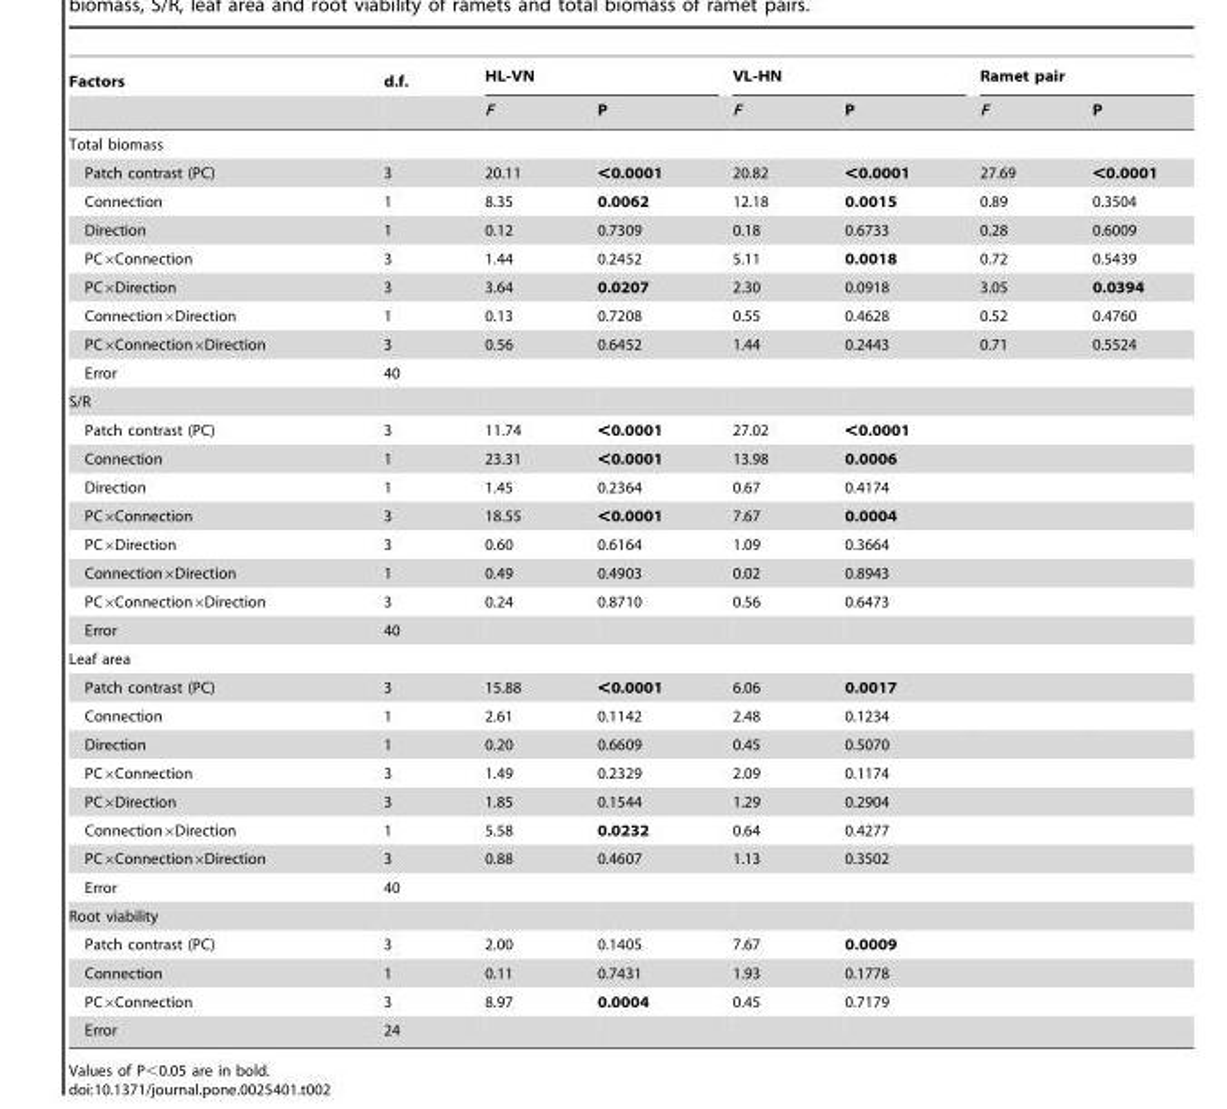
<table><thead><tr><td rowspan="2">Factors</td><td rowspan="2">d.f.</td><td colspan="2">HL-VN</td><td colspan="2">VL-HN</td><td colspan="2">Ramet pair</td></tr><tr><td>F</td><td>P</td><td>F</td><td>P</td><td>F</td><td>P</td></tr></thead><tbody><tr><td colspan="8">Total biomass</td></tr><tr><td>Patch contrast (PC)</td><td>3</td><td>20.11</td><td>&lt;0.0001</td><td>20.82</td><td>&lt;0.0001</td><td>27.69</td><td>&lt;0.0001</td></tr><tr><td>Connection</td><td>1</td><td>8.35</td><td>0.0062</td><td>12.18</td><td>0.0015</td><td>0.89</td><td>0.3504</td></tr><tr><td>Direction</td><td>1</td><td>0.12</td><td>0.7309</td><td>0.18</td><td>0.6733</td><td>0.28</td><td>0.6009</td></tr><tr><td>PC×Connection</td><td>3</td><td>1.44</td><td>0.2452</td><td>5.11</td><td>0.0018</td><td>0.72</td><td>0.5439</td></tr><tr><td>PC×Direction</td><td>3</td><td>3.64</td><td>0.0207</td><td>2.30</td><td>0.0918</td><td>3.05</td><td>0.0394</td></tr><tr><td>Connection×Direction</td><td>1</td><td>0.13</td><td>0.7208</td><td>0.55</td><td>0.4628</td><td>0.52</td><td>0.4760</td></tr><tr><td>PC×Connection×Direction</td><td>3</td><td>0.56</td><td>0.6452</td><td>1.44</td><td>0.2443</td><td>0.71</td><td>0.5524</td></tr><tr><td>Error</td><td>40</td><td></td><td></td><td></td><td></td><td></td><td></td></tr><tr><td colspan="8">S/R</td></tr><tr><td>Patch contrast (PC)</td><td>3</td><td>11.74</td><td>&lt;0.0001</td><td>27.02</td><td>&lt;0.0001</td><td></td><td></td></tr><tr><td>Connection</td><td>1</td><td>23.31</td><td>&lt;0.0001</td><td>13.98</td><td>0.0006</td><td></td><td></td></tr><tr><td>Direction</td><td>1</td><td>1.45</td><td>0.2364</td><td>0.67</td><td>0.4174</td><td></td><td></td></tr><tr><td>PC×Connection</td><td>3</td><td>18.55</td><td>&lt;0.0001</td><td>7.67</td><td>0.0004</td><td></td><td></td></tr><tr><td>PC×Direction</td><td>3</td><td>0.60</td><td>0.6164</td><td>1.09</td><td>0.3664</td><td></td><td></td></tr><tr><td>Connection×Direction</td><td>1</td><td>0.49</td><td>0.4903</td><td>0.02</td><td>0.8943</td><td></td><td></td></tr><tr><td>PC×Connection×Direction</td><td>3</td><td>0.24</td><td>0.8710</td><td>0.56</td><td>0.6473</td><td></td><td></td></tr><tr><td>Error</td><td>40</td><td></td><td></td><td></td><td></td><td></td><td></td></tr><tr><td colspan="8">Leaf area</td></tr><tr><td>Patch contrast (PC)</td><td>3</td><td>15.88</td><td>&lt;0.0001</td><td>6.06</td><td>0.0017</td><td></td><td></td></tr><tr><td>Connection</td><td>1</td><td>2.61</td><td>0.1142</td><td>2.48</td><td>0.1234</td><td></td><td></td></tr><tr><td>Direction</td><td>1</td><td>0.20</td><td>0.6609</td><td>0.45</td><td>0.5070</td><td></td><td></td></tr><tr><td>PC×Connection</td><td>3</td><td>1.49</td><td>0.2329</td><td>2.09</td><td>0.1174</td><td></td><td></td></tr><tr><td>PC×Direction</td><td>3</td><td>1.85</td><td>0.1544</td><td>1.29</td><td>0.2904</td><td></td><td></td></tr><tr><td>Connection×Direction</td><td>1</td><td>5.58</td><td>0.0232</td><td>0.64</td><td>0.4277</td><td></td><td></td></tr><tr><td>PC×Connection×Direction</td><td>3</td><td>0.88</td><td>0.4607</td><td>1.13</td><td>0.3502</td><td></td><td></td></tr><tr><td>Error</td><td>40</td><td></td><td></td><td></td><td></td><td></td><td></td></tr><tr><td colspan="8">Root viability</td></tr><tr><td>Patch contrast (PC)</td><td>3</td><td>2.00</td><td>0.1405</td><td>7.67</td><td>0.0009</td><td></td><td></td></tr><tr><td>Connection</td><td>1</td><td>0.11</td><td>0.7431</td><td>1.93</td><td>0.1778</td><td></td><td></td></tr><tr><td>PC×Connection</td><td>3</td><td>8.97</td><td>0.0004</td><td>0.45</td><td>0.7179</td><td></td><td></td></tr><tr><td>Error</td><td>24</td><td></td><td></td><td></td><td></td><td></td><td></td></tr></tbody></table>